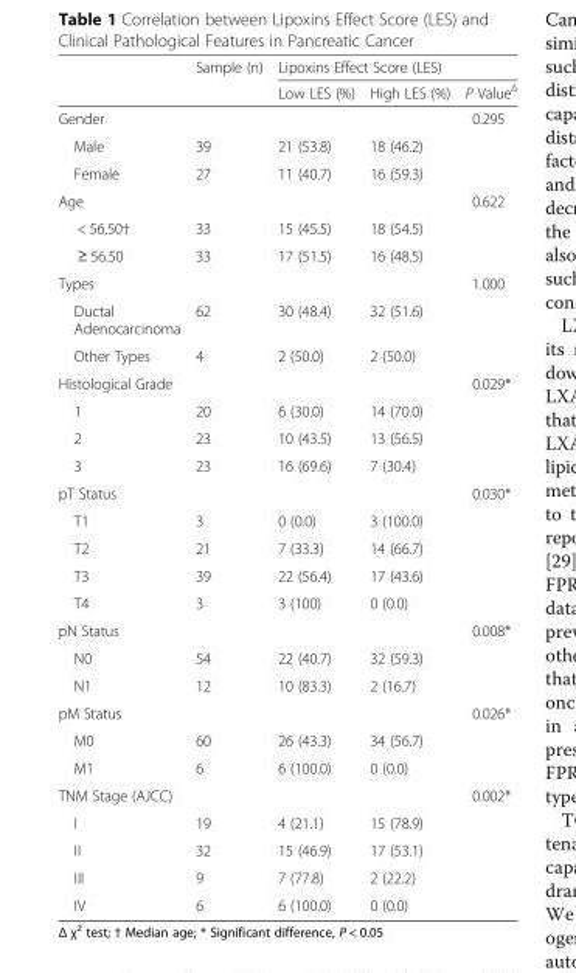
<table><thead><tr><td rowspan="2"></td><td rowspan="2">Sample (n)</td><td colspan="3">Lipoxins Effect Score (LES)</td></tr><tr><td>Low LES (%)</td><td>High LES (%)</td><td>P ValueΔ</td></tr></thead><tbody><tr><td>Gender</td><td></td><td></td><td></td><td>0.295</td></tr><tr><td>Male</td><td>39</td><td>21 (53.8)</td><td>18 (46.2)</td><td></td></tr><tr><td>Female</td><td>27</td><td>11 (40.7)</td><td>16 (59.3)</td><td></td></tr><tr><td>Age</td><td></td><td></td><td></td><td>0.622</td></tr><tr><td>&lt; 56.50†</td><td>33</td><td>15 (45.5)</td><td>18 (54.5)</td><td></td></tr><tr><td>≥ 56.50</td><td>33</td><td>17 (51.5)</td><td>16 (48.5)</td><td></td></tr><tr><td>Types</td><td></td><td></td><td></td><td>1.000</td></tr><tr><td>Ductal Adenocarcinoma</td><td>62</td><td>30 (48.4)</td><td>32 (51.6)</td><td></td></tr><tr><td>Other Types</td><td>4</td><td>2 (50.0)</td><td>2 (50.0)</td><td></td></tr><tr><td>Histological Grade</td><td></td><td></td><td></td><td>0.029*</td></tr><tr><td>1</td><td>20</td><td>6 (30.0)</td><td>14 (70.0)</td><td></td></tr><tr><td>2</td><td>23</td><td>10 (43.5)</td><td>13 (56.5)</td><td></td></tr><tr><td>3</td><td>23</td><td>16 (69.6)</td><td>7 (30.4)</td><td></td></tr><tr><td>pT Status</td><td></td><td></td><td></td><td>0.030*</td></tr><tr><td>T1</td><td>3</td><td>0 (0.0)</td><td>3 (100.0)</td><td></td></tr><tr><td>T2</td><td>21</td><td>7 (33.3)</td><td>14 (66.7)</td><td></td></tr><tr><td>T3</td><td>39</td><td>22 (56.4)</td><td>17 (43.6)</td><td></td></tr><tr><td>T4</td><td>3</td><td>3 (100)</td><td>0 (0.0)</td><td></td></tr><tr><td>pN Status</td><td></td><td></td><td></td><td>0.008*</td></tr><tr><td>N0</td><td>54</td><td>22 (40.7)</td><td>32 (59.3)</td><td></td></tr><tr><td>N1</td><td>12</td><td>10 (83.3)</td><td>2 (16.7)</td><td></td></tr><tr><td>pM Status</td><td></td><td></td><td></td><td>0.026*</td></tr><tr><td>M0</td><td>60</td><td>26 (43.3)</td><td>34 (56.7)</td><td></td></tr><tr><td>M1</td><td>6</td><td>6 (100.0)</td><td>0 (0.0)</td><td></td></tr><tr><td>TNM Stage (AJCC)</td><td></td><td></td><td></td><td>0.002*</td></tr><tr><td>I</td><td>19</td><td>4 (21.1)</td><td>15 (78.9)</td><td></td></tr><tr><td>II</td><td>32</td><td>15 (46.9)</td><td>17 (53.1)</td><td></td></tr><tr><td>III</td><td>9</td><td>7 (77.8)</td><td>2 (22.2)</td><td></td></tr><tr><td>IV</td><td>6</td><td>6 (100.0)</td><td>0 (0.0)</td><td></td></tr></tbody></table>